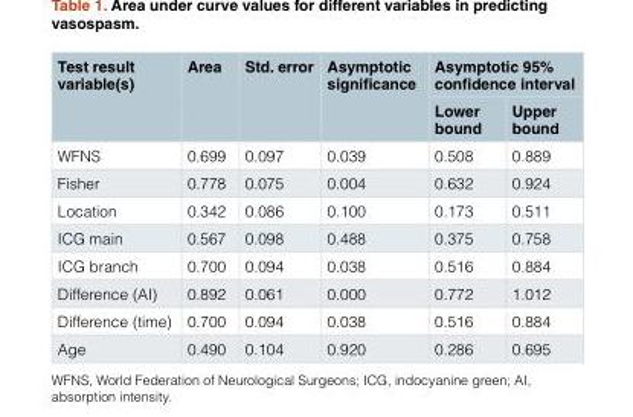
<table><thead><tr><td rowspan="2">Test result variable(s)</td><td rowspan="2">Area</td><td rowspan="2">Std. error</td><td rowspan="2">Asymptotic significance</td><td colspan="2">Asymptotic 95% confidence interval</td></tr><tr><td>Lower bound</td><td>Upper bound</td></tr></thead><tbody><tr><td>WFNS</td><td>0.699</td><td>0.097</td><td>0.039</td><td>0.508</td><td>0.889</td></tr><tr><td>Fisher</td><td>0.778</td><td>0.075</td><td>0.004</td><td>0.632</td><td>0.924</td></tr><tr><td>Location</td><td>0.342</td><td>0.086</td><td>0.100</td><td>0.173</td><td>0.511</td></tr><tr><td>ICG main</td><td>0.567</td><td>0.098</td><td>0.488</td><td>0.375</td><td>0.758</td></tr><tr><td>ICG branch</td><td>0.700</td><td>0.094</td><td>0.038</td><td>0.516</td><td>0.884</td></tr><tr><td>Difference (AI)</td><td>0.892</td><td>0.061</td><td>0.000</td><td>0.772</td><td>1.012</td></tr><tr><td>Difference (time)</td><td>0.700</td><td>0.094</td><td>0.038</td><td>0.516</td><td>0.884</td></tr><tr><td>Age</td><td>0.490</td><td>0.104</td><td>0.920</td><td>0.286</td><td>0.695</td></tr></tbody></table>